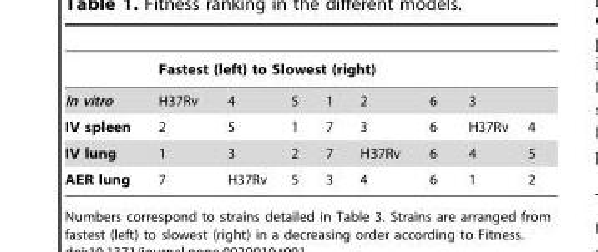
<table><thead><tr><td rowspan="2">In vitro</td><td colspan="8">Fastest (left) to Slowest (right)</td></tr><tr><td>H37Rv</td><td>4</td><td>5</td><td>1</td><td>2</td><td>6</td><td>3</td><td></td></tr></thead><tbody><tr><td>IV spleen</td><td>2</td><td>5</td><td>1</td><td>7</td><td>3</td><td>6</td><td>H37Rv</td><td>4</td></tr><tr><td>IV lung</td><td>1</td><td>3</td><td>2</td><td>7</td><td>H37Rv</td><td>6</td><td>4</td><td>5</td></tr><tr><td>AER lung</td><td>7</td><td>H37Rv</td><td>5</td><td>3</td><td>4</td><td>6</td><td>1</td><td>2</td></tr></tbody></table>